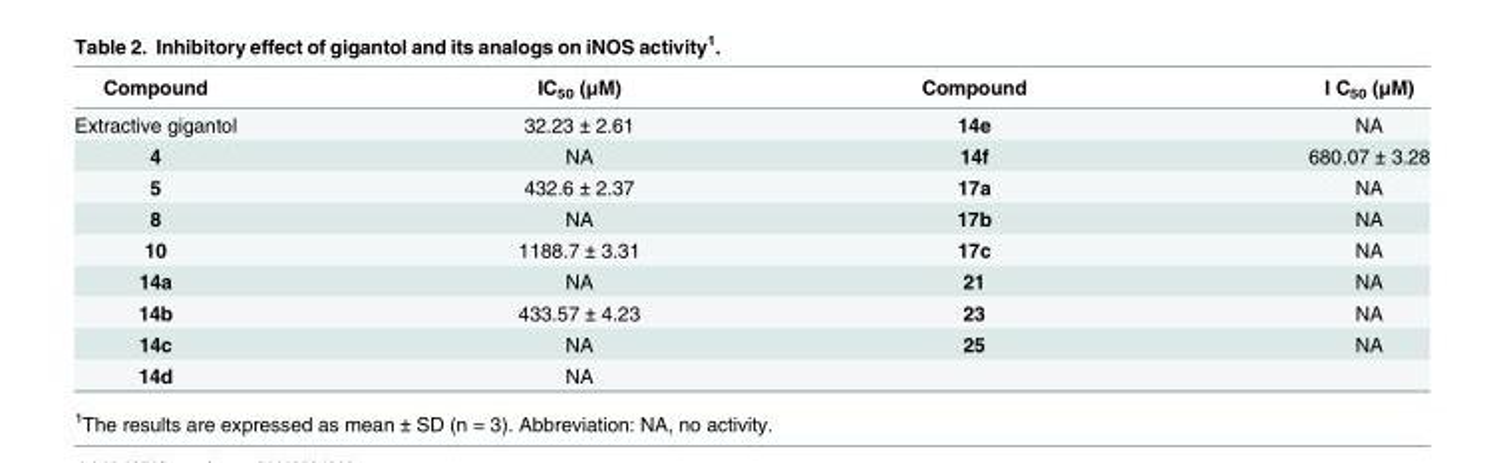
<table><thead><tr><td>Compound</td><td>IC<sub>50</sub> (μM)</td><td>Compound</td><td>I C<sub>50</sub> (μM)</td></tr></thead><tbody><tr><td>Extractive gigantol</td><td>32.23 ± 2.61</td><td>14e</td><td>NA</td></tr><tr><td>4</td><td>NA</td><td>14f</td><td>680.07 ± 3.28</td></tr><tr><td>5</td><td>432.6 ± 2.37</td><td>17a</td><td>NA</td></tr><tr><td>8</td><td>NA</td><td>17b</td><td>NA</td></tr><tr><td>10</td><td>1188.7 ± 3.31</td><td>17c</td><td>NA</td></tr><tr><td>14a</td><td>NA</td><td>21</td><td>NA</td></tr><tr><td>14b</td><td>433.57 ± 4.23</td><td>23</td><td>NA</td></tr><tr><td>14c</td><td>NA</td><td>25</td><td>NA</td></tr><tr><td>14d</td><td>NA</td><td></td><td></td></tr></tbody></table>